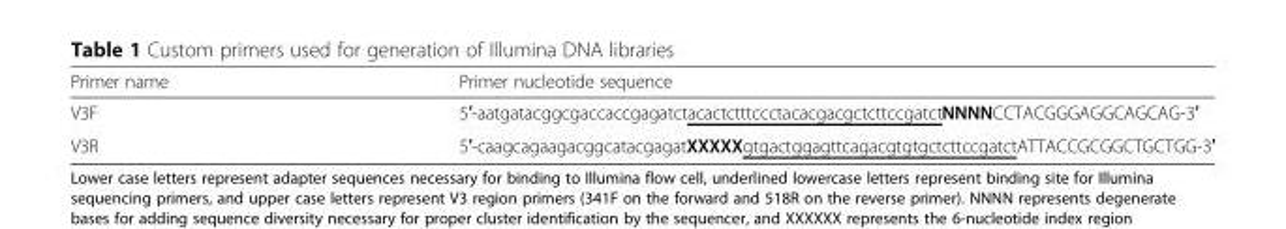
<table><thead><tr><td>Primer name</td><td>Primer nucleotide sequence</td></tr></thead><tbody><tr><td>V3F</td><td>5′-aatgatacggcgaccaccgagatctacactctttccctacacgacgctcttccgatctNNNNCCTACGGGAGGCAGCAG-3′</td></tr><tr><td>V3R</td><td>5′-caagcagaagacggcatacgagatXXXXXgtgactggagttcagacgtgtgctcttccgatctATTACCGCGGCTGCTGG-3′</td></tr></tbody></table>